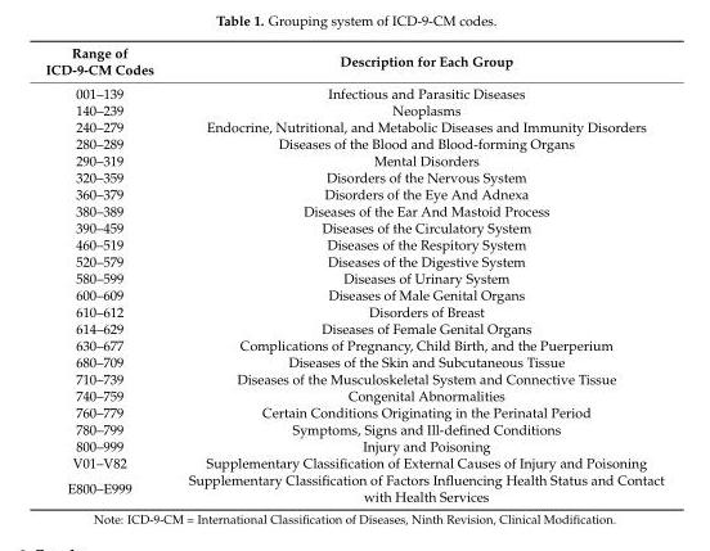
<table><thead><tr><td>Range of ICD-9-CM Codes</td><td>Description for Each Group</td></tr></thead><tbody><tr><td>001–139</td><td>Infectious and Parasitic Diseases</td></tr><tr><td>140–239</td><td>Neoplasms</td></tr><tr><td>240–279</td><td>Endocrine, Nutritional, and Metabolic Diseases and Immunity Disorders</td></tr><tr><td>280–289</td><td>Diseases of the Blood and Blood-forming Organs</td></tr><tr><td>290–319</td><td>Mental Disorders</td></tr><tr><td>320–359</td><td>Disorders of the Nervous System</td></tr><tr><td>360–379</td><td>Disorders of the Eye And Adnexa</td></tr><tr><td>380–389</td><td>Diseases of the Ear And Mastoid Process</td></tr><tr><td>390–459</td><td>Diseases of the Circulatory System</td></tr><tr><td>460–519</td><td>Diseases of the Respitory System</td></tr><tr><td>520–579</td><td>Diseases of the Digestive System</td></tr><tr><td>580–599</td><td>Diseases of Urinary System</td></tr><tr><td>600–609</td><td>Diseases of Male Genital Organs</td></tr><tr><td>610–612</td><td>Disorders of Breast</td></tr><tr><td>614–629</td><td>Diseases of Female Genital Organs</td></tr><tr><td>630–677</td><td>Complications of Pregnancy, Child Birth, and the Puerperium</td></tr><tr><td>680–709</td><td>Diseases of the Skin and Subcutaneous Tissue</td></tr><tr><td>710–739</td><td>Diseases of the Musculoskeletal System and Connective Tissue</td></tr><tr><td>740–759</td><td>Congenital Abnormalities</td></tr><tr><td>760–779</td><td>Certain Conditions Originating in the Perinatal Period</td></tr><tr><td>780–799</td><td>Symptoms, Signs and Ill-defined Conditions</td></tr><tr><td>800–999</td><td>Injury and Poisoning</td></tr><tr><td>V01–V82</td><td>Supplementary Classification of External Causes of Injury and Poisoning</td></tr><tr><td>E800–E999</td><td>Supplementary Classification of Factors Influencing Health Status and Contact with Health Services</td></tr></tbody></table>